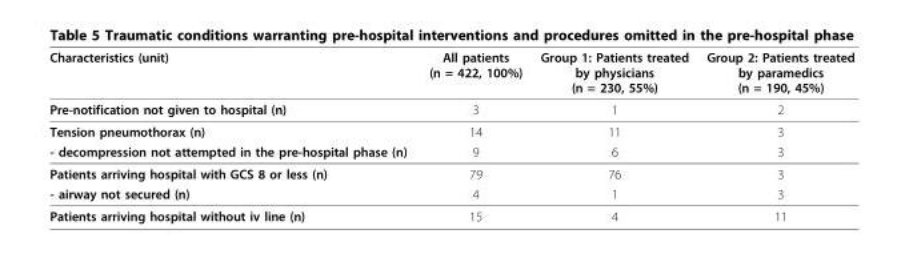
<table><thead><tr><td>Characteristics (unit)</td><td>All patients (n = 422, 100%)</td><td>Group 1: Patients treated by physicians (n = 230, 55%)</td><td>Group 2: Patients treated by paramedics (n = 190, 45%)</td></tr></thead><tbody><tr><td>Pre-notification not given to hospital (n)</td><td>3</td><td>1</td><td>2</td></tr><tr><td>Tension pneumothorax (n)</td><td>14</td><td>11</td><td>3</td></tr><tr><td>- decompression not attempted in the pre-hospital phase (n)</td><td>9</td><td>6</td><td>3</td></tr><tr><td>Patients arriving hospital with GCS 8 or less (n)</td><td>79</td><td>76</td><td>3</td></tr><tr><td>- airway not secured (n)</td><td>4</td><td>1</td><td>3</td></tr><tr><td>Patients arriving hospital without iv line (n)</td><td>15</td><td>4</td><td>11</td></tr></tbody></table>